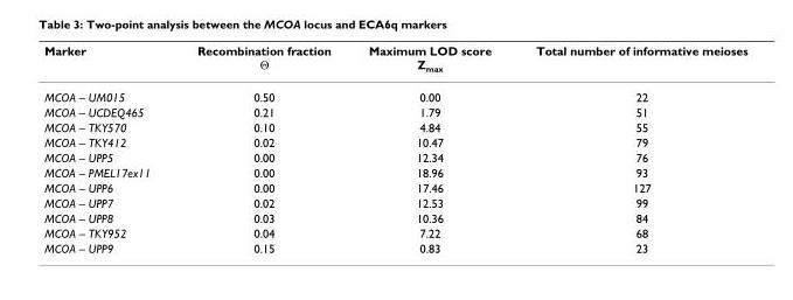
<table><thead><tr><td>Marker</td><td>Recombination fraction Θ</td><td>Maximum LOD score Z<sub>max</sub></td><td>Total number of informative meioses</td></tr></thead><tbody><tr><td>MCOA – UM015</td><td>0.50</td><td>0.00</td><td>22</td></tr><tr><td>MCOA – UCDEQ465</td><td>0.21</td><td>1.79</td><td>51</td></tr><tr><td>MCOA – TKY570</td><td>0.10</td><td>4.84</td><td>55</td></tr><tr><td>MCOA – TKY412</td><td>0.02</td><td>10.47</td><td>79</td></tr><tr><td>MCOA – UPP5</td><td>0.00</td><td>12.34</td><td>76</td></tr><tr><td>MCOA – PMEL17ex11</td><td>0.00</td><td>18.96</td><td>93</td></tr><tr><td>MCOA – UPP6</td><td>0.00</td><td>17.46</td><td>127</td></tr><tr><td>MCOA – UPP7</td><td>0.02</td><td>12.53</td><td>99</td></tr><tr><td>MCOA – UPP8</td><td>0.03</td><td>10.36</td><td>84</td></tr><tr><td>MCOA – TKY952</td><td>0.04</td><td>7.22</td><td>68</td></tr><tr><td>MCOA – UPP9</td><td>0.15</td><td>0.83</td><td>23</td></tr></tbody></table>